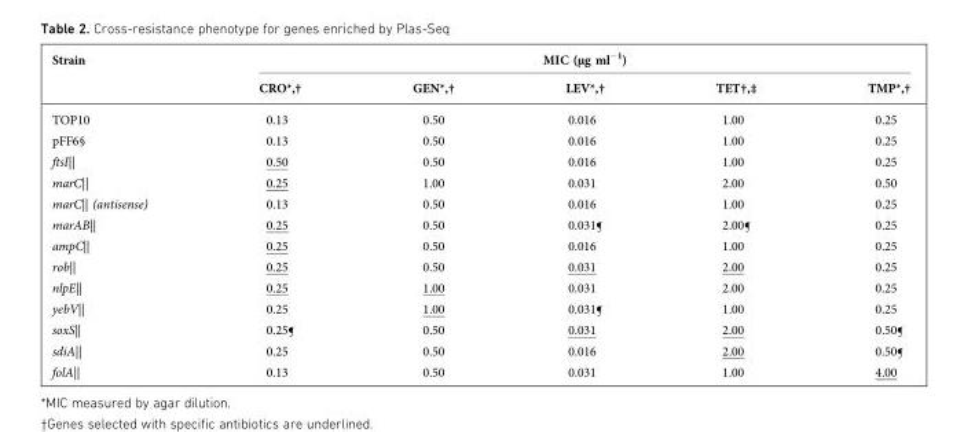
<table><thead><tr><td rowspan="2">Strain</td><td colspan="5">MIC (µg ml<sup>−1</sup>)</td></tr><tr><td>CRO*,†</td><td>GEN*,†</td><td>LEV*,†</td><td>TET†,‡</td><td>TMP*,†</td></tr></thead><tbody><tr><td>TOP10</td><td>0.13</td><td>0.50</td><td>0.016</td><td>1.00</td><td>0.25</td></tr><tr><td>pFF6§</td><td>0.13</td><td>0.50</td><td>0.016</td><td>1.00</td><td>0.25</td></tr><tr><td>ftsI||</td><td>0.50</td><td>0.50</td><td>0.016</td><td>1.00</td><td>0.25</td></tr><tr><td>marC||</td><td>0.25</td><td>1.00</td><td>0.031</td><td>2.00</td><td>0.50</td></tr><tr><td>marC|| (antisense)</td><td>0.13</td><td>0.50</td><td>0.016</td><td>1.00</td><td>0.25</td></tr><tr><td>marAB||</td><td>0.25</td><td>0.50</td><td>0.031¶</td><td>2.00¶</td><td>0.25</td></tr><tr><td>ampC||</td><td>0.25</td><td>0.50</td><td>0.016</td><td>1.00</td><td>0.25</td></tr><tr><td>rob||</td><td>0.25</td><td>0.50</td><td>0.031</td><td>2.00</td><td>0.25</td></tr><tr><td>nlpE||</td><td>0.25</td><td>1.00</td><td>0.031</td><td>2.00</td><td>0.25</td></tr><tr><td>yebV||</td><td>0.25</td><td>1.00</td><td>0.031¶</td><td>1.00</td><td>0.25</td></tr><tr><td>soxS||</td><td>0.25¶</td><td>0.50</td><td>0.031</td><td>2.00</td><td>0.50¶</td></tr><tr><td>sdiA||</td><td>0.25</td><td>0.50</td><td>0.016</td><td>2.00</td><td>0.50¶</td></tr><tr><td>folA||</td><td>0.13</td><td>0.50</td><td>0.031</td><td>1.00</td><td>4.00</td></tr></tbody></table>